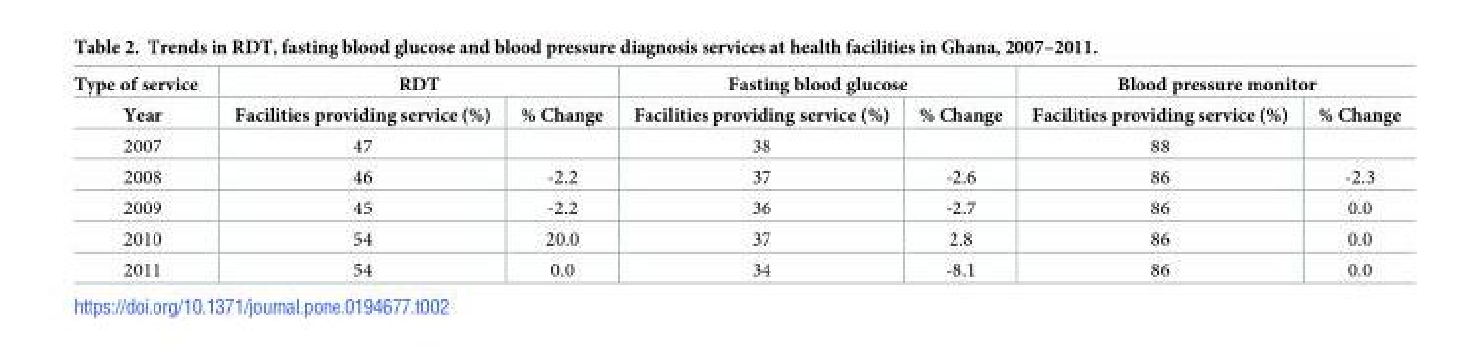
<table><thead><tr><td rowspan="2">Type of service Year</td><td colspan="2">RDT</td><td colspan="2">Fasting blood glucose</td><td colspan="2">Blood pressure monitor</td></tr><tr><td>Facilities providing service (%)</td><td>% Change</td><td>Facilities providing service (%)</td><td>% Change</td><td>Facilities providing service (%)</td><td>% Change</td></tr></thead><tbody><tr><td>2007</td><td>47</td><td></td><td>38</td><td></td><td>88</td><td></td></tr><tr><td>2008</td><td>46</td><td>-2.2</td><td>37</td><td>-2.6</td><td>86</td><td>-2.3</td></tr><tr><td>2009</td><td>45</td><td>-2.2</td><td>36</td><td>-2.7</td><td>86</td><td>0.0</td></tr><tr><td>2010</td><td>54</td><td>20.0</td><td>37</td><td>2.8</td><td>86</td><td>0.0</td></tr><tr><td>2011</td><td>54</td><td>0.0</td><td>34</td><td>-8.1</td><td>86</td><td>0.0</td></tr></tbody></table>